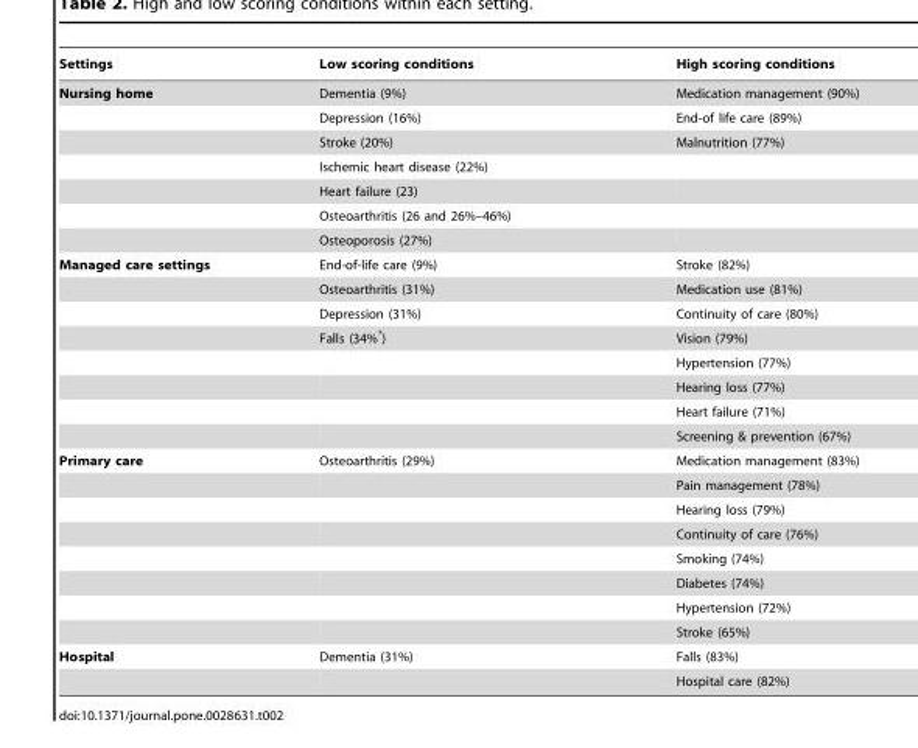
<table><thead><tr><td>Settings</td><td>Low scoring conditions</td><td>High scoring conditions</td></tr></thead><tbody><tr><td rowspan="7">Nursing home</td><td>Dementia (9%)</td><td>Medication management (90%)</td></tr><tr><td>Depression (16%)</td><td>End-of life care (89%)</td></tr><tr><td>Stroke (20%)</td><td>Malnutrition (77%)</td></tr><tr><td>Ischemic heart disease (22%)</td><td></td></tr><tr><td>Heart failure (23)</td><td></td></tr><tr><td>Osteoarthritis (26 and 26%–46%)</td><td></td></tr><tr><td>Osteoporosis (27%)</td><td></td></tr><tr><td rowspan="8">Managed care settings</td><td>End-of-life care (9%)</td><td>Stroke (82%)</td></tr><tr><td>Osteoarthritis (31%)</td><td>Medication use (81%)</td></tr><tr><td>Depression (31%)</td><td>Continuity of care (80%)</td></tr><tr><td>Falls (34%*)</td><td>Vision (79%)</td></tr><tr><td></td><td>Hypertension (77%)</td></tr><tr><td></td><td>Hearing loss (77%)</td></tr><tr><td></td><td>Heart failure (71%)</td></tr><tr><td></td><td>Screening &amp; prevention (67%)</td></tr><tr><td rowspan="8">Primary care</td><td>Osteoarthritis (29%)</td><td>Medication management (83%)</td></tr><tr><td></td><td>Pain management (78%)</td></tr><tr><td></td><td>Hearing loss (79%)</td></tr><tr><td></td><td>Continuity of care (76%)</td></tr><tr><td></td><td>Smoking (74%)</td></tr><tr><td></td><td>Diabetes (74%)</td></tr><tr><td></td><td>Hypertension (72%)</td></tr><tr><td></td><td>Stroke (65%)</td></tr><tr><td rowspan="2">Hospital</td><td>Dementia (31%)</td><td>Falls (83%)</td></tr><tr><td></td><td>Hospital care (82%)</td></tr></tbody></table>